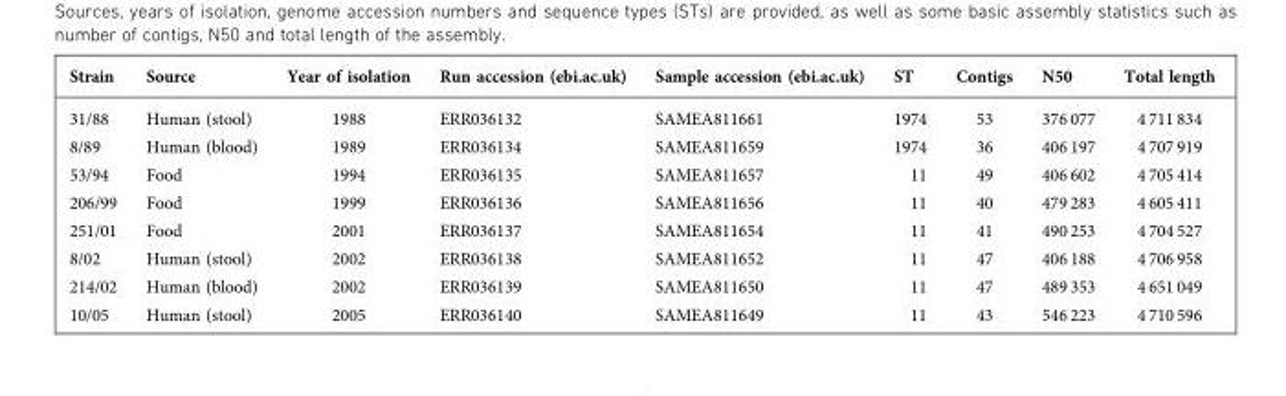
<table><thead><tr><td>Strain</td><td>Source</td><td>Year of isolation</td><td>Run accession (ebi.ac.uk)</td><td>Sample accession (ebi.ac.uk)</td><td>ST</td><td>Contigs</td><td>N50</td><td>Total length</td></tr></thead><tbody><tr><td>31/88</td><td>Human (stool)</td><td>1988</td><td>ERR036132</td><td>SAMEA811661</td><td>1974</td><td>53</td><td>376 077</td><td>4 711 834</td></tr><tr><td>8/89</td><td>Human (blood)</td><td>1989</td><td>ERR036134</td><td>SAMEA811659</td><td>1974</td><td>36</td><td>406 197</td><td>4 707 919</td></tr><tr><td>53/94</td><td>Food</td><td>1994</td><td>ERR036135</td><td>SAMEA811657</td><td>11</td><td>49</td><td>406 602</td><td>4 705 414</td></tr><tr><td>206/99</td><td>Food</td><td>1999</td><td>ERR036136</td><td>SAMEA811656</td><td>11</td><td>40</td><td>479 283</td><td>4 605 411</td></tr><tr><td>251/01</td><td>Food</td><td>2001</td><td>ERR036137</td><td>SAMEA811654</td><td>11</td><td>41</td><td>490 253</td><td>4 704 527</td></tr><tr><td>8/02</td><td>Human (stool)</td><td>2002</td><td>ERR036138</td><td>SAMEA811652</td><td>11</td><td>47</td><td>406 188</td><td>4 706 958</td></tr><tr><td>214/02</td><td>Human (blood)</td><td>2002</td><td>ERR036139</td><td>SAMEA811650</td><td>11</td><td>47</td><td>489 353</td><td>4 651 049</td></tr><tr><td>10/05</td><td>Human (stool)</td><td>2005</td><td>ERR036140</td><td>SAMEA811649</td><td>11</td><td>43</td><td>546 223</td><td>4 710 596</td></tr></tbody></table>